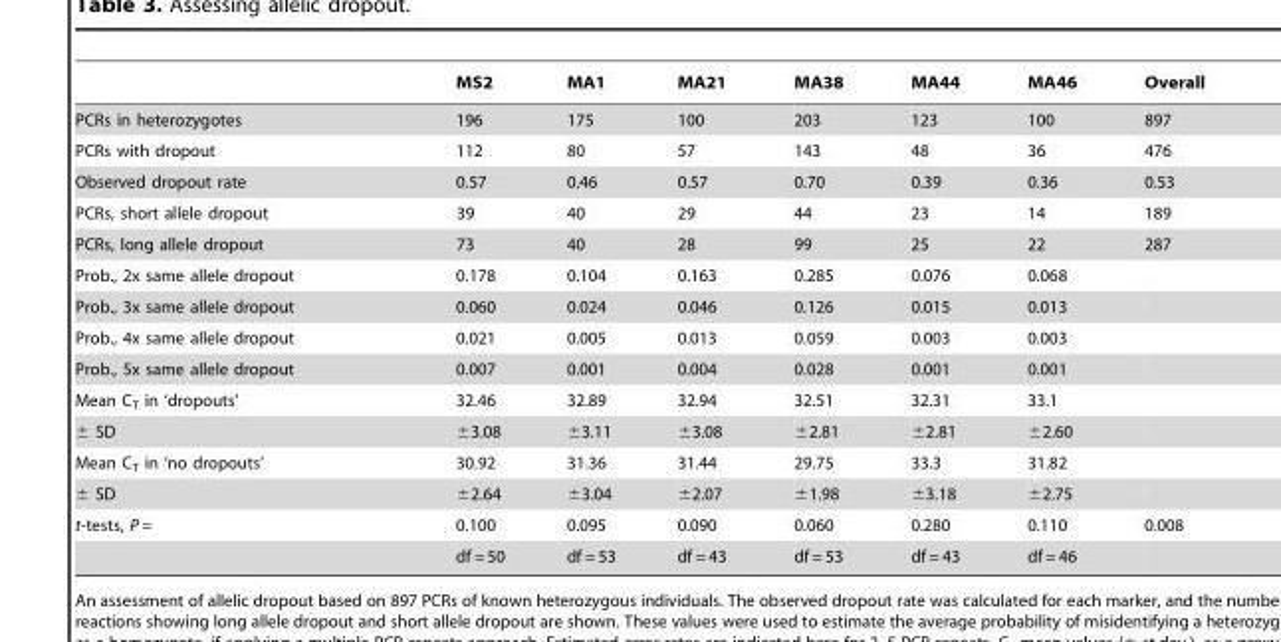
<table><thead><tr><td></td><td>MS2</td><td>MA1</td><td>MA21</td><td>MA38</td><td>MA44</td><td>MA46</td><td>Overall</td></tr></thead><tbody><tr><td>PCRs in heterozygotes</td><td>196</td><td>175</td><td>100</td><td>203</td><td>123</td><td>100</td><td>897</td></tr><tr><td>PCRs with dropout</td><td>112</td><td>80</td><td>57</td><td>143</td><td>48</td><td>36</td><td>476</td></tr><tr><td>Observed dropout rate</td><td>0.57</td><td>0.46</td><td>0.57</td><td>0.70</td><td>0.39</td><td>0.36</td><td>0.53</td></tr><tr><td>PCRs, short allele dropout</td><td>39</td><td>40</td><td>29</td><td>44</td><td>23</td><td>14</td><td>189</td></tr><tr><td>PCRs, long allele dropout</td><td>73</td><td>40</td><td>28</td><td>99</td><td>25</td><td>22</td><td>287</td></tr><tr><td>Prob., 2x same allele dropout</td><td>0.178</td><td>0.104</td><td>0.163</td><td>0.285</td><td>0.076</td><td>0.068</td><td></td></tr><tr><td>Prob., 3x same allele dropout</td><td>0.060</td><td>0.024</td><td>0.046</td><td>0.126</td><td>0.015</td><td>0.013</td><td></td></tr><tr><td>Prob., 4x same allele dropout</td><td>0.021</td><td>0.005</td><td>0.013</td><td>0.059</td><td>0.003</td><td>0.003</td><td></td></tr><tr><td>Prob., 5x same allele dropout</td><td>0.007</td><td>0.001</td><td>0.004</td><td>0.028</td><td>0.001</td><td>0.001</td><td></td></tr><tr><td>Mean C<sub>T</sub> in ‘dropouts’</td><td>32.46</td><td>32.89</td><td>32.94</td><td>32.51</td><td>32.31</td><td>33.1</td><td></td></tr><tr><td>± SD</td><td>±3.08</td><td>±3.11</td><td>±3.08</td><td>±2.81</td><td>±2.81</td><td>±2.60</td><td></td></tr><tr><td>Mean C<sub>T</sub> in ‘no dropouts’</td><td>30.92</td><td>31.36</td><td>31.44</td><td>29.75</td><td>33.3</td><td>31.82</td><td></td></tr><tr><td>± SD</td><td>±2.64</td><td>±3.04</td><td>±2.07</td><td>±1.98</td><td>±3.18</td><td>±2.75</td><td></td></tr><tr><td rowspan="2">t-tests, P =</td><td>0.100</td><td>0.095</td><td>0.090</td><td>0.060</td><td>0.280</td><td>0.110</td><td>0.008</td></tr><tr><td>df = 50</td><td>df = 53</td><td>df = 43</td><td>df = 53</td><td>df = 43</td><td>df = 46</td><td></td></tr></tbody></table>